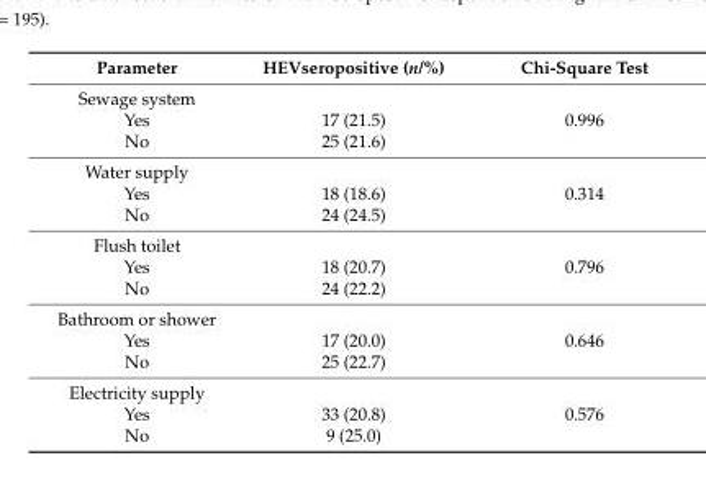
<table><thead><tr><td>Parameter</td><td>HEVseropositive (n/%)</td><td>Chi-Square Test</td></tr></thead><tbody><tr><td colspan="3">Sewage system</td></tr><tr><td>Yes</td><td>17 (21.5)</td><td>0.996</td></tr><tr><td>No</td><td>25 (21.6)</td><td></td></tr><tr><td colspan="3">Water supply</td></tr><tr><td>Yes</td><td>18 (18.6)</td><td>0.314</td></tr><tr><td>No</td><td>24 (24.5)</td><td></td></tr><tr><td colspan="3">Flush toilet</td></tr><tr><td>Yes</td><td>18 (20.7)</td><td>0.796</td></tr><tr><td>No</td><td>24 (22.2)</td><td></td></tr><tr><td colspan="3">Bathroom or shower</td></tr><tr><td>Yes</td><td>17 (20.0)</td><td>0.646</td></tr><tr><td>No</td><td>25 (22.7)</td><td></td></tr><tr><td colspan="3">Electricity supply</td></tr><tr><td>Yes</td><td>33 (20.8)</td><td>0.576</td></tr><tr><td>No</td><td>9 (25.0)</td><td></td></tr></tbody></table>